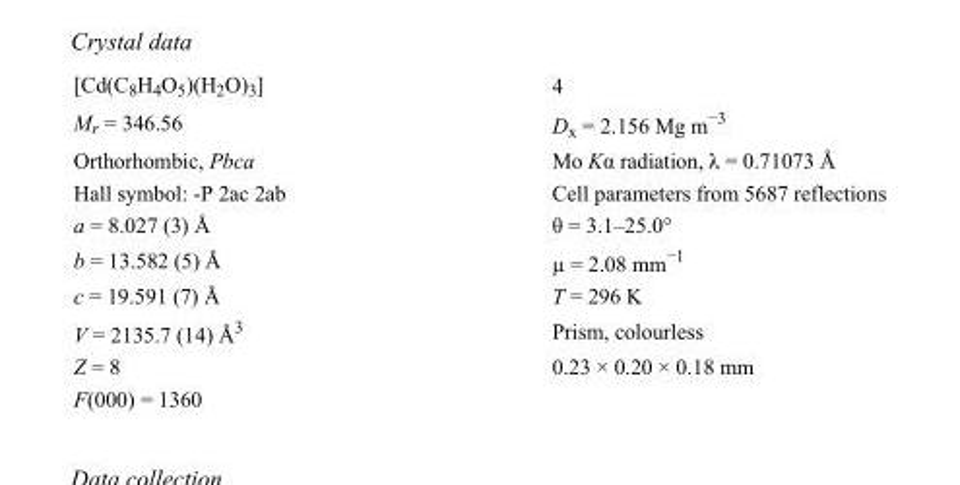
<table><tbody><tr><td>[Cd(C<sub>8</sub>H<sub>4</sub>O<sub>5</sub>)(H<sub>2</sub>O)<sub>3</sub>]</td><td>4</td></tr><tr><td>M<sub>r</sub> = 346.56</td><td>D<sub>x</sub> = 2.156 Mg m<sup>−3</sup></td></tr><tr><td>Orthorhombic, Pbca</td><td>Mo Kα radiation, λ = 0.71073 Å</td></tr><tr><td>Hall symbol: -P 2ac 2ab</td><td>Cell parameters from 5687 reflections</td></tr><tr><td>a = 8.027 (3) Å</td><td>θ = 3.1–25.0°</td></tr><tr><td>b = 13.582 (5) Å</td><td>µ = 2.08 mm<sup>−1</sup></td></tr><tr><td>c = 19.591 (7) Å</td><td>T = 296 K</td></tr><tr><td>V = 2135.7 (14) Å<sup>3</sup></td><td>Prism, colourless</td></tr><tr><td>Z = 8</td><td>0.23 × 0.20 × 0.18 mm</td></tr><tr><td>F(000) = 1360</td><td></td></tr></tbody></table>